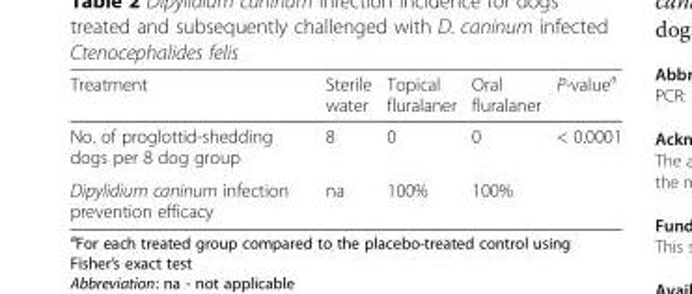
<table><thead><tr><td>Treatment</td><td>Sterile water</td><td>Topical fluralaner</td><td>Oral fluralaner</td><td>P-value<sup>a</sup></td></tr></thead><tbody><tr><td>No. of proglottid-shedding dogs per 8 dog group</td><td>8</td><td>0</td><td>0</td><td>&lt; 0.0001</td></tr><tr><td>Dipylidium caninum infection prevention efficacy</td><td>na</td><td>100%</td><td>100%</td><td></td></tr></tbody></table>